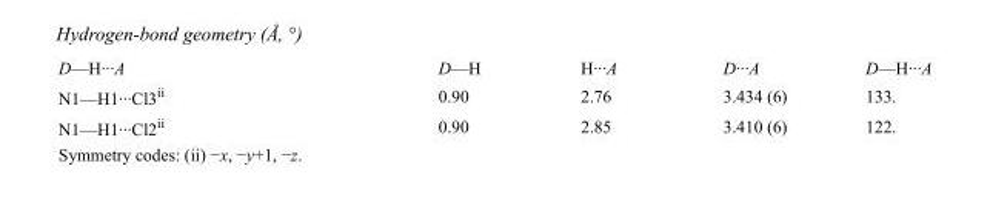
<table><tbody><tr><td>D—H···A</td><td>D—H</td><td>H···A</td><td>D···A</td><td>D—H···A</td></tr><tr><td>N1—H1···Cl3<sup>ii</sup></td><td>0.90</td><td>2.76</td><td>3.434 (6)</td><td>133.</td></tr><tr><td>N1—H1···Cl2<sup>ii</sup></td><td>0.90</td><td>2.85</td><td>3.410 (6)</td><td>122.</td></tr></tbody></table>